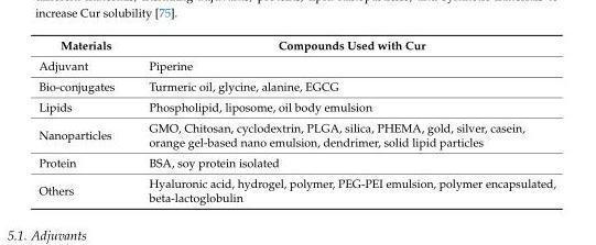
<table><thead><tr><td>Materials</td><td>Compounds Used with Cur</td></tr></thead><tbody><tr><td>Adjuvant</td><td>Piperine</td></tr><tr><td>Bio-conjugates</td><td>Turmeric oil, glycine, alanine, EGCG</td></tr><tr><td>Lipids</td><td>Phospholipid, liposome, oil body emulsion</td></tr><tr><td>Nanoparticles</td><td>GMO, Chitosan, cyclodextrin, PLGA, silica, PHEMA, gold, silver, casein, orange gel-based nano emulsion, dendrimer, solid lipid particles</td></tr><tr><td>Protein</td><td>BSA, soy protein isolated</td></tr><tr><td>Others</td><td>Hyaluronic acid, hydrogel, polymer, PEG-PEI emulsion, polymer encapsulated, beta-lactoglobulin</td></tr></tbody></table>